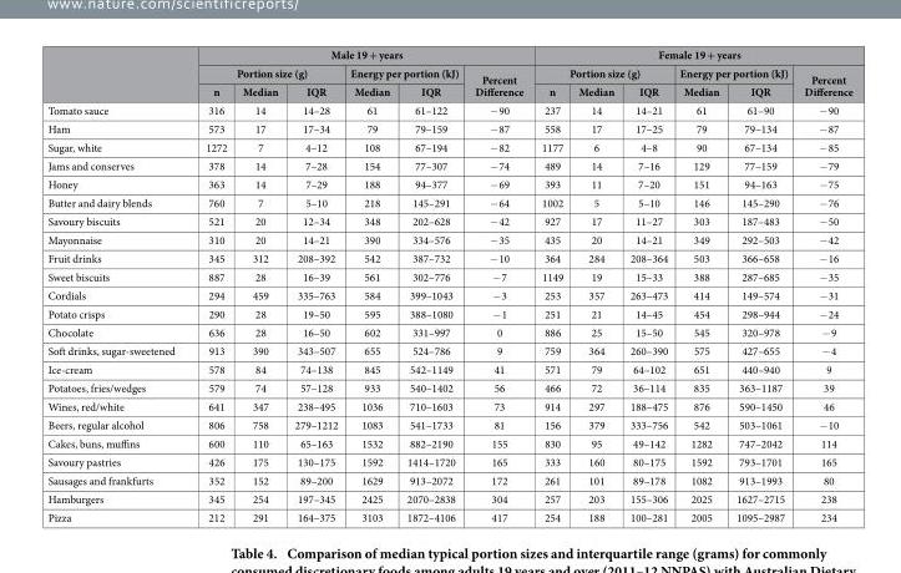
<table><thead><tr><td rowspan="3"></td><td colspan="6">Male 19 + years</td><td colspan="6">Female 19 + years</td></tr><tr><td colspan="3">Portion size (g)</td><td colspan="2">Energy per portion (kJ)</td><td rowspan="2">Percent Difference</td><td colspan="3">Portion size (g)</td><td colspan="2">Energy per portion (kJ)</td><td rowspan="2">Percent Difference</td></tr><tr><td>n</td><td>Median</td><td>IQR</td><td>Median</td><td>IQR</td><td>n</td><td>Median</td><td>IQR</td><td>Median</td><td>IQR</td></tr></thead><tbody><tr><td>Tomato sauce</td><td>316</td><td>14</td><td>14–28</td><td>61</td><td>61–122</td><td>− 90</td><td>237</td><td>14</td><td>14–21</td><td>61</td><td>61–90</td><td>− 90</td></tr><tr><td>Ham</td><td>573</td><td>17</td><td>17–34</td><td>79</td><td>79–159</td><td>− 87</td><td>558</td><td>17</td><td>17–25</td><td>79</td><td>79–134</td><td>− 87</td></tr><tr><td>Sugar, white</td><td>1272</td><td>7</td><td>4–12</td><td>108</td><td>67–194</td><td>− 82</td><td>1177</td><td>6</td><td>4–8</td><td>90</td><td>67–134</td><td>− 85</td></tr><tr><td>Jams and conserves</td><td>378</td><td>14</td><td>7–28</td><td>154</td><td>77–307</td><td>− 74</td><td>489</td><td>14</td><td>7–16</td><td>129</td><td>77–159</td><td>− 79</td></tr><tr><td>Honey</td><td>363</td><td>14</td><td>7–29</td><td>188</td><td>94–377</td><td>− 69</td><td>393</td><td>11</td><td>7–20</td><td>151</td><td>94–163</td><td>− 75</td></tr><tr><td>Butter and dairy blends</td><td>760</td><td>7</td><td>5–10</td><td>218</td><td>145–291</td><td>− 64</td><td>1002</td><td>5</td><td>5–10</td><td>146</td><td>145–290</td><td>− 76</td></tr><tr><td>Savoury biscuits</td><td>521</td><td>20</td><td>12–34</td><td>348</td><td>202–628</td><td>− 42</td><td>927</td><td>17</td><td>11–27</td><td>303</td><td>187–483</td><td>− 50</td></tr><tr><td>Mayonnaise</td><td>310</td><td>20</td><td>14–21</td><td>390</td><td>334–576</td><td>− 35</td><td>435</td><td>20</td><td>14–21</td><td>349</td><td>292–503</td><td>− 42</td></tr><tr><td>Fruit drinks</td><td>345</td><td>312</td><td>208–392</td><td>542</td><td>387–732</td><td>− 10</td><td>364</td><td>284</td><td>208–364</td><td>503</td><td>366–658</td><td>− 16</td></tr><tr><td>Sweet biscuits</td><td>887</td><td>28</td><td>16–39</td><td>561</td><td>302–776</td><td>− 7</td><td>1149</td><td>19</td><td>15–33</td><td>388</td><td>287–685</td><td>− 35</td></tr><tr><td>Cordials</td><td>294</td><td>459</td><td>335–763</td><td>584</td><td>399–1043</td><td>− 3</td><td>253</td><td>357</td><td>263–473</td><td>414</td><td>149–574</td><td>− 31</td></tr><tr><td>Potato crisps</td><td>290</td><td>28</td><td>19–50</td><td>595</td><td>388–1080</td><td>− 1</td><td>251</td><td>21</td><td>14–45</td><td>454</td><td>298–944</td><td>− 24</td></tr><tr><td>Chocolate</td><td>636</td><td>28</td><td>16–50</td><td>602</td><td>331–997</td><td>0</td><td>886</td><td>25</td><td>15–50</td><td>545</td><td>320–978</td><td>− 9</td></tr><tr><td>Soft drinks, sugar-sweetened</td><td>913</td><td>390</td><td>343–507</td><td>655</td><td>524–786</td><td>9</td><td>759</td><td>364</td><td>260–390</td><td>575</td><td>427–655</td><td>− 4</td></tr><tr><td>Ice-cream</td><td>578</td><td>84</td><td>74–138</td><td>845</td><td>542–1149</td><td>41</td><td>571</td><td>79</td><td>64–102</td><td>651</td><td>440–940</td><td>9</td></tr><tr><td>Potatoes, fries/wedges</td><td>579</td><td>74</td><td>57–128</td><td>933</td><td>540–1402</td><td>56</td><td>466</td><td>72</td><td>36–114</td><td>835</td><td>363–1187</td><td>39</td></tr><tr><td>Wines, red/white</td><td>641</td><td>347</td><td>238–495</td><td>1036</td><td>710–1603</td><td>73</td><td>914</td><td>297</td><td>188–475</td><td>876</td><td>590–1450</td><td>46</td></tr><tr><td>Beers, regular alcohol</td><td>806</td><td>758</td><td>279–1212</td><td>1083</td><td>541–1733</td><td>81</td><td>156</td><td>379</td><td>333–756</td><td>542</td><td>503–1061</td><td>− 10</td></tr><tr><td>Cakes, buns, muffins</td><td>600</td><td>110</td><td>65–163</td><td>1532</td><td>882–2190</td><td>155</td><td>830</td><td>95</td><td>49–142</td><td>1282</td><td>747–2042</td><td>114</td></tr><tr><td>Savoury pastries</td><td>426</td><td>175</td><td>130–175</td><td>1592</td><td>1414–1720</td><td>165</td><td>333</td><td>160</td><td>80–175</td><td>1592</td><td>793–1701</td><td>165</td></tr><tr><td>Sausages and frankfurts</td><td>352</td><td>152</td><td>89–200</td><td>1629</td><td>913–2072</td><td>172</td><td>261</td><td>101</td><td>89–178</td><td>1082</td><td>913–1993</td><td>80</td></tr><tr><td>Hamburgers</td><td>345</td><td>254</td><td>197–345</td><td>2425</td><td>2070–2838</td><td>304</td><td>257</td><td>203</td><td>155–306</td><td>2025</td><td>1627–2715</td><td>238</td></tr><tr><td>Pizza</td><td>212</td><td>291</td><td>164–375</td><td>3103</td><td>1872–4106</td><td>417</td><td>254</td><td>188</td><td>100–281</td><td>2005</td><td>1095–2987</td><td>234</td></tr></tbody></table>